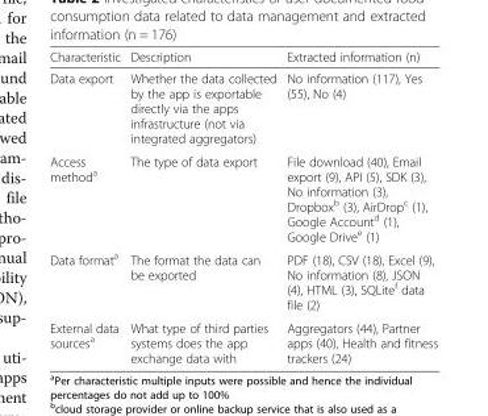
<table><thead><tr><td>Characteristic</td><td>Description</td><td>Extracted information (n)</td></tr></thead><tbody><tr><td>Data export</td><td>Whether the data collected by the app is exportable directly via the apps infrastructure (not via integrated aggregators)</td><td>No information (117), Yes (55), No (4)</td></tr><tr><td>Access method<sup>a</sup></td><td>The type of data export</td><td>File download (40), Email export (9), API (5), SDK (3), No information (3), Dropbox<sup>b</sup> (3), AirDrop<sup>c</sup> (1), Google Account<sup>d</sup> (1), Google Drive<sup>e</sup> (1)</td></tr><tr><td>Data format<sup>a</sup></td><td>The format the data can be exported</td><td>PDF (18), CSV (18), Excel (9), No information (8), JSON (4), HTML (3), SQLite<sup>f</sup> data file (2)</td></tr><tr><td>External data sources<sup>a</sup></td><td>What type of third parties systems does the app exchange data with</td><td>Aggregators (44), Partner apps (40), Health and fitness trackers (24)</td></tr></tbody></table>